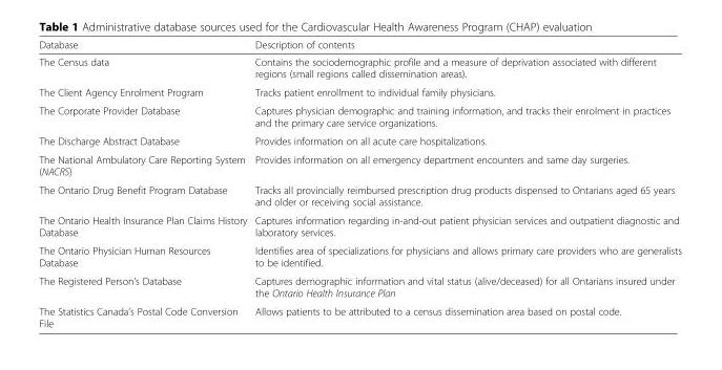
<table><thead><tr><td>Database</td><td>Description of contents</td></tr></thead><tbody><tr><td>The Census data</td><td>Contains the sociodemographic profile and a measure of deprivation associated with different regions (small regions called dissemination areas).</td></tr><tr><td>The Client Agency Enrolment Program</td><td>Tracks patient enrollment to individual family physicians.</td></tr><tr><td>The Corporate Provider Database</td><td>Captures physician demographic and training information, and tracks their enrolment in practices and the primary care service organizations.</td></tr><tr><td>The Discharge Abstract Database</td><td>Provides information on all acute care hospitalizations.</td></tr><tr><td>The National Ambulatory Care Reporting System (NACRS)</td><td>Provides information on all emergency department encounters and same day surgeries.</td></tr><tr><td>The Ontario Drug Benefit Program Database</td><td>Tracks all provincially reimbursed prescription drug products dispensed to Ontarians aged 65 years and older or receiving social assistance.</td></tr><tr><td>The Ontario Health Insurance Plan Claims History Database</td><td>Captures information regarding in-and-out patient physician services and outpatient diagnostic and laboratory services.</td></tr><tr><td>The Ontario Physician Human Resources Database</td><td>Identifies area of specializations for physicians and allows primary care providers who are generalists to be identified.</td></tr><tr><td>The Registered Person’s Database</td><td>Captures demographic information and vital status (alive/deceased) for all Ontarians insured under the Ontario Health Insurance Plan</td></tr><tr><td>The Statistics Canada’s Postal Code Conversion File</td><td>Allows patients to be attributed to a census dissemination area based on postal code.</td></tr></tbody></table>